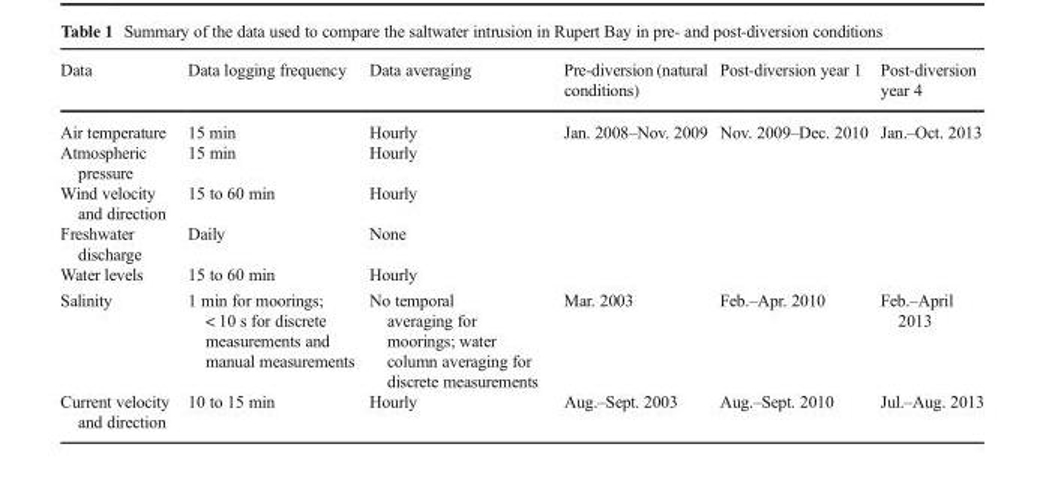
<table><thead><tr><td>Data</td><td>Data logging frequency</td><td>Data averaging</td><td>Pre-diversion (natural conditions)</td><td>Post-diversion year 1</td><td>Post-diversion year 4</td></tr></thead><tbody><tr><td>Air temperature</td><td>15 min</td><td>Hourly</td><td rowspan="5">Jan. 2008–Nov. 2009</td><td rowspan="5">Nov. 2009–Dec. 2010</td><td rowspan="5">Jan.–Oct. 2013</td></tr><tr><td>Atmospheric pressure</td><td>15 min</td><td>Hourly</td></tr><tr><td>Wind velocity and direction</td><td>15 to 60 min</td><td>Hourly</td></tr><tr><td>Freshwater discharge</td><td>Daily</td><td>None</td></tr><tr><td>Water levels</td><td>15 to 60 min</td><td>Hourly</td></tr><tr><td>Salinity</td><td>1 min for moorings; &lt; 10 s for discrete measurements and manual measurements</td><td>No temporal averaging for moorings; water column averaging for discrete measurements</td><td>Mar. 2003</td><td>Feb.–Apr. 2010</td><td>Feb.–April 2013</td></tr><tr><td>Current velocity and direction</td><td>10 to 15 min</td><td>Hourly</td><td>Aug.–Sept. 2003</td><td>Aug.–Sept. 2010</td><td>Jul.–Aug. 2013</td></tr></tbody></table>